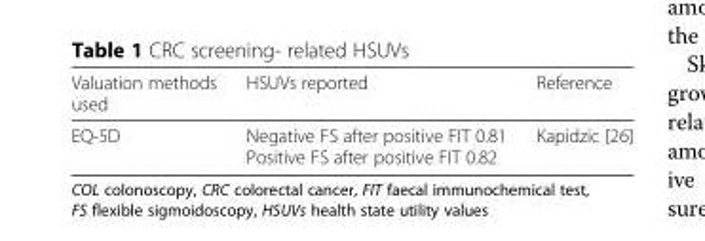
<table><thead><tr><td>Valuation methods used</td><td>HSUVs reported</td><td>Reference</td></tr></thead><tbody><tr><td>EQ-5D</td><td>Negative FS after positive FIT 0.81 Positive FS after positive FIT 0.82</td><td>Kapidzic [26]</td></tr></tbody></table>